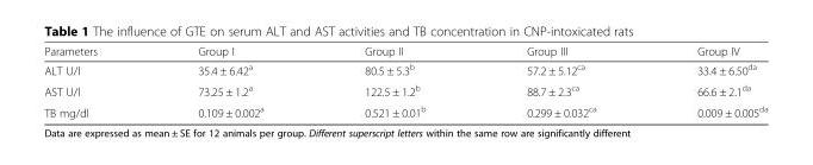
<table><thead><tr><td>Parameters</td><td>Group I</td><td>Group II</td><td>Group III</td><td>Group IV</td></tr></thead><tbody><tr><td>ALT U/l</td><td>35.4 ± 6.42<sup>a</sup></td><td>80.5 ± 5.3<sup>b</sup></td><td>57.2 ± 5.12<sup>ca</sup></td><td>33.4 ± 6.50<sup>da</sup></td></tr><tr><td>AST U/l</td><td>73.25 ± 1.2<sup>a</sup></td><td>122.5 ± 1.2<sup>b</sup></td><td>88.7 ± 2.3<sup>ca</sup></td><td>66.6 ± 2.1<sup>da</sup></td></tr><tr><td>TB mg/dl</td><td>0.109 ± 0.002<sup>a</sup></td><td>0.521 ± 0.01<sup>b</sup></td><td>0.299 ± 0.032<sup>ca</sup></td><td>0.009 ± 0.005<sup>da</sup></td></tr></tbody></table>